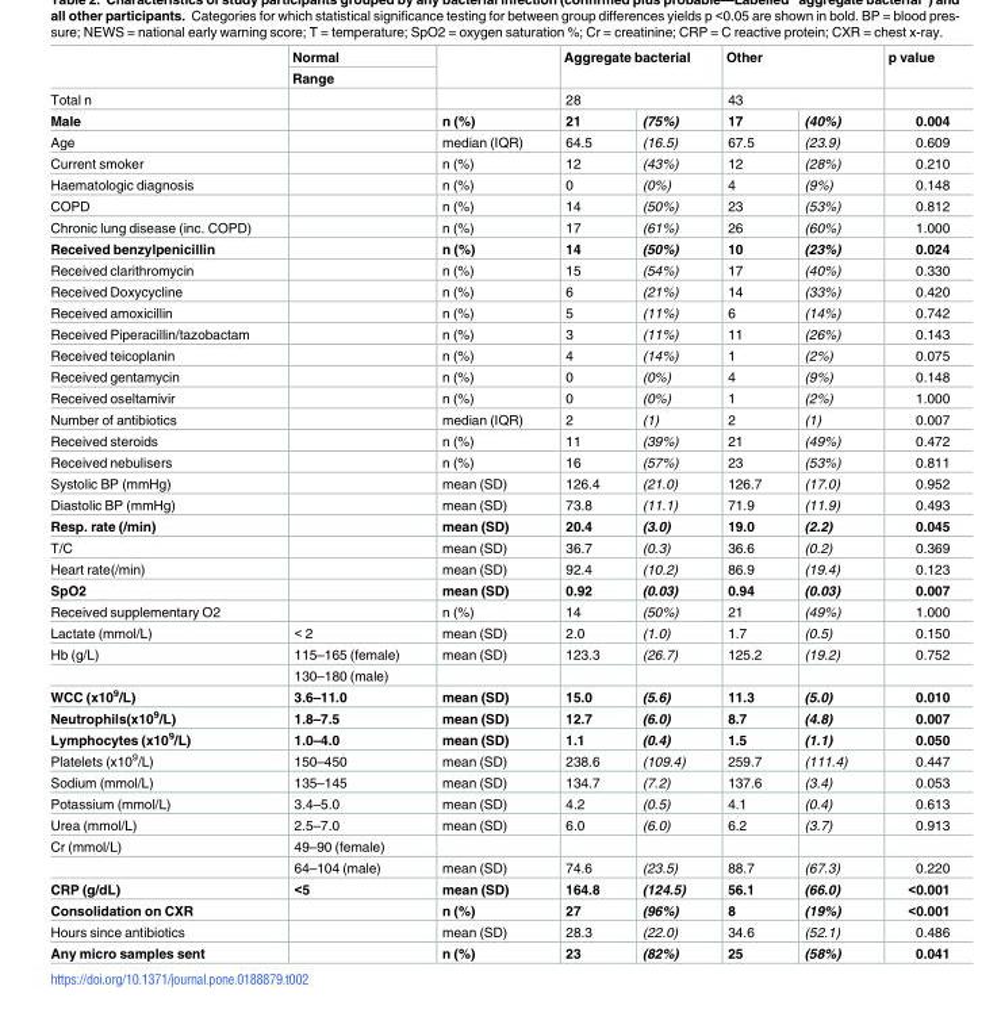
<table><thead><tr><td rowspan="4">Total n Male</td><td rowspan="4">Normal Range</td><td rowspan="4">n (%)</td><td rowspan="3" colspan="2">Aggregate bacterial 28</td><td rowspan="3" colspan="2">Other 43</td><td rowspan="4">p value 0.004</td></tr><tr></tr><tr></tr><tr><td>21</td><td>(75%)</td><td>17</td><td>(40%)</td></tr></thead><tbody><tr><td>Age</td><td></td><td>median (IQR)</td><td>64.5</td><td>(16.5)</td><td>67.5</td><td>(23.9)</td><td>0.609</td></tr><tr><td>Current smoker</td><td></td><td>n (%)</td><td>12</td><td>(43%)</td><td>12</td><td>(28%)</td><td>0.210</td></tr><tr><td>Haematologic diagnosis</td><td></td><td>n (%)</td><td>0</td><td>(0%)</td><td>4</td><td>(9%)</td><td>0.148</td></tr><tr><td>COPD</td><td></td><td>n (%)</td><td>14</td><td>(50%)</td><td>23</td><td>(53%)</td><td>0.812</td></tr><tr><td>Chronic lung disease (inc. COPD)</td><td></td><td>n (%)</td><td>17</td><td>(61%)</td><td>26</td><td>(60%)</td><td>1.000</td></tr><tr><td>Received benzylpenicillin</td><td></td><td>n (%)</td><td>14</td><td>(50%)</td><td>10</td><td>(23%)</td><td>0.024</td></tr><tr><td>Received clarithromycin</td><td></td><td>n (%)</td><td>15</td><td>(54%)</td><td>17</td><td>(40%)</td><td>0.330</td></tr><tr><td>Received Doxycycline</td><td></td><td>n (%)</td><td>6</td><td>(21%)</td><td>14</td><td>(33%)</td><td>0.420</td></tr><tr><td>Received amoxicillin</td><td></td><td>n (%)</td><td>5</td><td>(11%)</td><td>6</td><td>(14%)</td><td>0.742</td></tr><tr><td>Received Piperacillin/tazobactam</td><td></td><td>n (%)</td><td>3</td><td>(11%)</td><td>11</td><td>(26%)</td><td>0.143</td></tr><tr><td>Received teicoplanin</td><td></td><td>n (%)</td><td>4</td><td>(14%)</td><td>1</td><td>(2%)</td><td>0.075</td></tr><tr><td>Received gentamycin</td><td></td><td>n (%)</td><td>0</td><td>(0%)</td><td>4</td><td>(9%)</td><td>0.148</td></tr><tr><td>Received oseltamivir</td><td></td><td>n (%)</td><td>0</td><td>(0%)</td><td>1</td><td>(2%)</td><td>1.000</td></tr><tr><td>Number of antibiotics</td><td></td><td>median (IQR)</td><td>2</td><td>(1)</td><td>2</td><td>(1)</td><td>0.007</td></tr><tr><td>Received steroids</td><td></td><td>n (%)</td><td>11</td><td>(39%)</td><td>21</td><td>(49%)</td><td>0.472</td></tr><tr><td>Received nebulisers</td><td></td><td>n (%)</td><td>16</td><td>(57%)</td><td>23</td><td>(53%)</td><td>0.811</td></tr><tr><td>Systolic BP (mmHg)</td><td></td><td>mean (SD)</td><td>126.4</td><td>(21.0)</td><td>126.7</td><td>(17.0)</td><td>0.952</td></tr><tr><td>Diastolic BP (mmHg)</td><td></td><td>mean (SD)</td><td>73.8</td><td>(11.1)</td><td>71.9</td><td>(11.9)</td><td>0.493</td></tr><tr><td>Resp. rate (/min)</td><td></td><td>mean (SD)</td><td>20.4</td><td>(3.0)</td><td>19.0</td><td>(2.2)</td><td>0.045</td></tr><tr><td>T/C</td><td></td><td>mean (SD)</td><td>36.7</td><td>(0.3)</td><td>36.6</td><td>(0.2)</td><td>0.369</td></tr><tr><td>Heart rate(/min)</td><td></td><td>mean (SD)</td><td>92.4</td><td>(10.2)</td><td>86.9</td><td>(19.4)</td><td>0.123</td></tr><tr><td>SpO2</td><td></td><td>mean (SD)</td><td>0.92</td><td>(0.03)</td><td>0.94</td><td>(0.03)</td><td>0.007</td></tr><tr><td>Received supplementary O2</td><td></td><td>n (%)</td><td>14</td><td>(50%)</td><td>21</td><td>(49%)</td><td>1.000</td></tr><tr><td>Lactate (mmol/L)</td><td>&lt; 2</td><td>mean (SD)</td><td>2.0</td><td>(1.0)</td><td>1.7</td><td>(0.5)</td><td>0.150</td></tr><tr><td rowspan="2">Hb (g/L)</td><td>115–165 (female)</td><td>mean (SD)</td><td>123.3</td><td>(26.7)</td><td>125.2</td><td>(19.2)</td><td>0.752</td></tr><tr><td>130–180 (male)</td><td></td><td></td><td></td><td></td><td></td><td></td></tr><tr><td>WCC (x10<sup>9</sup>/L)</td><td>3.6–11.0</td><td>mean (SD)</td><td>15.0</td><td>(5.6)</td><td>11.3</td><td>(5.0)</td><td>0.010</td></tr><tr><td>Neutrophils(x10<sup>9</sup>/L)</td><td>1.8–7.5</td><td>mean (SD)</td><td>12.7</td><td>(6.0)</td><td>8.7</td><td>(4.8)</td><td>0.007</td></tr><tr><td>Lymphocytes (x10<sup>9</sup>/L)</td><td>1.0–4.0</td><td>mean (SD)</td><td>1.1</td><td>(0.4)</td><td>1.5</td><td>(1.1)</td><td>0.050</td></tr><tr><td>Platelets (x10<sup>9</sup>/L)</td><td>150–450</td><td>mean (SD)</td><td>238.6</td><td>(109.4)</td><td>259.7</td><td>(111.4)</td><td>0.447</td></tr><tr><td>Sodium (mmol/L)</td><td>135–145</td><td>mean (SD)</td><td>134.7</td><td>(7.2)</td><td>137.6</td><td>(3.4)</td><td>0.053</td></tr><tr><td>Potassium (mmol/L)</td><td>3.4–5.0</td><td>mean (SD)</td><td>4.2</td><td>(0.5)</td><td>4.1</td><td>(0.4)</td><td>0.613</td></tr><tr><td>Urea (mmol/L)</td><td>2.5–7.0</td><td>mean (SD)</td><td>6.0</td><td>(6.0)</td><td>6.2</td><td>(3.7)</td><td>0.913</td></tr><tr><td rowspan="2">Cr (mmol/L)</td><td>49–90 (female)</td><td></td><td></td><td></td><td></td><td></td><td></td></tr><tr><td>64–104 (male)</td><td>mean (SD)</td><td>74.6</td><td>(23.5)</td><td>88.7</td><td>(67.3)</td><td>0.220</td></tr><tr><td>CRP (g/dL)</td><td>&lt;5</td><td>mean (SD)</td><td>164.8</td><td>(124.5)</td><td>56.1</td><td>(66.0)</td><td>&lt;0.001</td></tr><tr><td>Consolidation on CXR</td><td></td><td>n (%)</td><td>27</td><td>(96%)</td><td>8</td><td>(19%)</td><td>&lt;0.001</td></tr><tr><td>Hours since antibiotics</td><td></td><td>mean (SD)</td><td>28.3</td><td>(22.0)</td><td>34.6</td><td>(52.1)</td><td>0.486</td></tr><tr><td>Any micro samples sent</td><td></td><td>n (%)</td><td>23</td><td>(82%)</td><td>25</td><td>(58%)</td><td>0.041</td></tr></tbody></table>